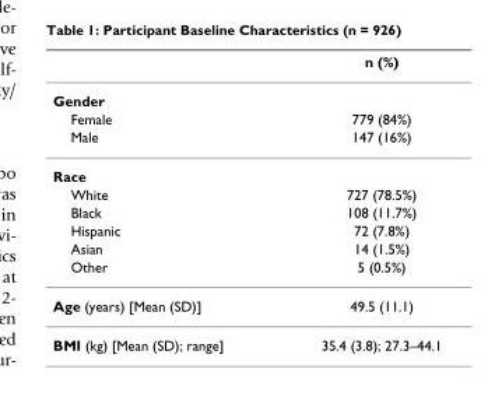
<table><thead><tr><td></td><td>n (%)</td></tr></thead><tbody><tr><td colspan="2">Gender</td></tr><tr><td>Female</td><td>779 (84%)</td></tr><tr><td>Male</td><td>147 (16%)</td></tr><tr><td colspan="2">Race</td></tr><tr><td>White</td><td>727 (78.5%)</td></tr><tr><td>Black</td><td>108 (11.7%)</td></tr><tr><td>Hispanic</td><td>72 (7.8%)</td></tr><tr><td>Asian</td><td>14 (1.5%)</td></tr><tr><td>Other</td><td>5 (0.5%)</td></tr><tr><td>Age (years) [Mean (SD)]</td><td>49.5 (11.1)</td></tr><tr><td>BMI (kg) [Mean (SD); range]</td><td>35.4 (3.8); 27.3–44.1</td></tr></tbody></table>